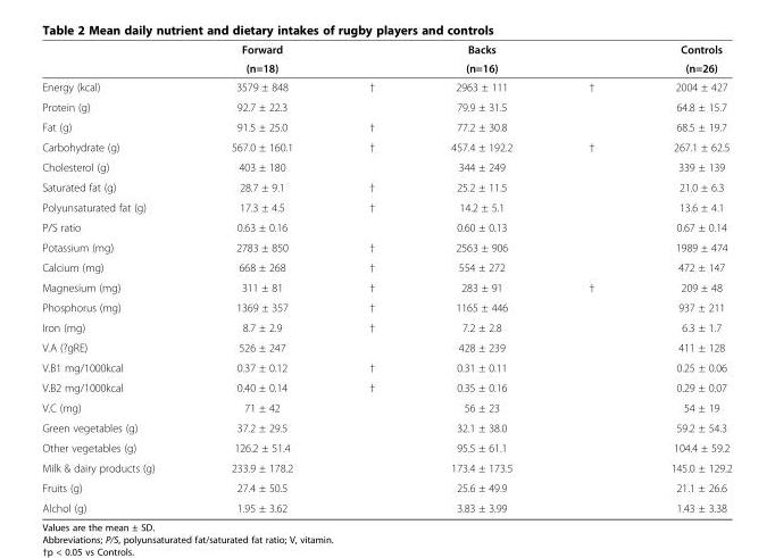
<table><thead><tr><td rowspan="2"></td><td rowspan="2">Forward (n=18)</td><td rowspan="2"></td><td rowspan="2">Backs (n=16)</td><td rowspan="2"></td><td rowspan="2">Controls (n=26)</td></tr><tr></tr></thead><tbody><tr><td>Energy (kcal)</td><td>3579 ± 848</td><td>†</td><td>2963 ± 111</td><td>†</td><td>2004 ± 427</td></tr><tr><td>Protein (g)</td><td>92.7 ± 22.3</td><td></td><td>79.9 ± 31.5</td><td></td><td>64.8 ± 15.7</td></tr><tr><td>Fat (g)</td><td>91.5 ± 25.0</td><td>†</td><td>77.2 ± 30.8</td><td></td><td>68.5 ± 19.7</td></tr><tr><td>Carbohydrate (g)</td><td>567.0 ± 160.1</td><td>†</td><td>457.4 ± 192.2</td><td>†</td><td>267.1 ± 62.5</td></tr><tr><td>Cholesterol (g)</td><td>403 ± 180</td><td></td><td>344 ± 249</td><td></td><td>339 ± 139</td></tr><tr><td>Saturated fat (g)</td><td>28.7 ± 9.1</td><td>†</td><td>25.2 ± 11.5</td><td></td><td>21.0 ± 6.3</td></tr><tr><td>Polyunsaturated fat (g)</td><td>17.3 ± 4.5</td><td>†</td><td>14.2 ± 5.1</td><td></td><td>13.6 ± 4.1</td></tr><tr><td>P/S ratio</td><td>0.63 ± 0.16</td><td></td><td>0.60 ± 0.13</td><td></td><td>0.67 ± 0.14</td></tr><tr><td>Potassium (mg)</td><td>2783 ± 850</td><td>†</td><td>2563 ± 906</td><td></td><td>1989 ± 474</td></tr><tr><td>Calcium (mg)</td><td>668 ± 268</td><td>†</td><td>554 ± 272</td><td></td><td>472 ± 147</td></tr><tr><td>Magnesium (mg)</td><td>311 ± 81</td><td>†</td><td>283 ± 91</td><td>†</td><td>209 ± 48</td></tr><tr><td>Phosphorus (mg)</td><td>1369 ± 357</td><td>†</td><td>1165 ± 446</td><td></td><td>937 ± 211</td></tr><tr><td>Iron (mg)</td><td>8.7 ± 2.9</td><td>†</td><td>7.2 ± 2.8</td><td></td><td>6.3 ± 1.7</td></tr><tr><td>V.A (?gRE)</td><td>526 ± 247</td><td></td><td>428 ± 239</td><td></td><td>411 ± 128</td></tr><tr><td>V.B1 mg/1000kcal</td><td>0.37 ± 0.12</td><td>†</td><td>0.31 ± 0.11</td><td></td><td>0.25 ± 0.06</td></tr><tr><td>V.B2 mg/1000kcal</td><td>0.40 ± 0.14</td><td>†</td><td>0.35 ± 0.16</td><td></td><td>0.29 ± 0.07</td></tr><tr><td>V.C (mg)</td><td>71 ± 42</td><td></td><td>56 ± 23</td><td></td><td>54 ± 19</td></tr><tr><td>Green vegetables (g)</td><td>37.2 ± 29.5</td><td></td><td>32.1 ± 38.0</td><td></td><td>59.2 ± 54.3</td></tr><tr><td>Other vegetables (g)</td><td>126.2 ± 51.4</td><td></td><td>95.5 ± 61.1</td><td></td><td>104.4 ± 59.2</td></tr><tr><td>Milk &amp; dairy products (g)</td><td>233.9 ± 178.2</td><td></td><td>173.4 ± 173.5</td><td></td><td>145.0 ± 129.2</td></tr><tr><td>Fruits (g)</td><td>27.4 ± 50.5</td><td></td><td>25.6 ± 49.9</td><td></td><td>21.1 ± 26.6</td></tr><tr><td>Alchol (g)</td><td>1.95 ± 3.62</td><td></td><td>3.83 ± 3.99</td><td></td><td>1.43 ± 3.38</td></tr></tbody></table>